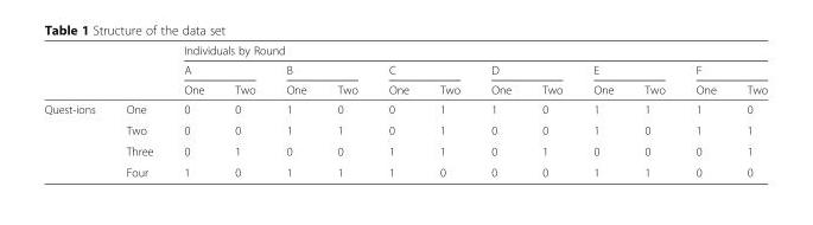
<table><thead><tr><td rowspan="3"></td><td rowspan="3"></td><td colspan="12">Individuals by Round</td></tr><tr><td colspan="2">A</td><td colspan="2">B</td><td colspan="2">C</td><td colspan="2">D</td><td colspan="2">E</td><td colspan="2">F</td></tr><tr><td>One</td><td>Two</td><td>One</td><td>Two</td><td>One</td><td>Two</td><td>One</td><td>Two</td><td>One</td><td>Two</td><td>One</td><td>Two</td></tr></thead><tbody><tr><td rowspan="4">Quest-ions</td><td>One</td><td>0</td><td>0</td><td>1</td><td>0</td><td>0</td><td>1</td><td>1</td><td>0</td><td>1</td><td>1</td><td>1</td><td>0</td></tr><tr><td>Two</td><td>0</td><td>0</td><td>1</td><td>1</td><td>0</td><td>1</td><td>0</td><td>0</td><td>1</td><td>0</td><td>1</td><td>1</td></tr><tr><td>Three</td><td>0</td><td>1</td><td>0</td><td>0</td><td>1</td><td>1</td><td>0</td><td>1</td><td>0</td><td>0</td><td>0</td><td>1</td></tr><tr><td>Four</td><td>1</td><td>0</td><td>1</td><td>1</td><td>1</td><td>0</td><td>0</td><td>0</td><td>1</td><td>1</td><td>0</td><td>0</td></tr></tbody></table>